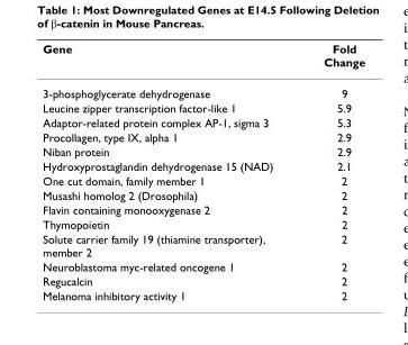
<table><thead><tr><td>Gene</td><td>Fold Change</td></tr></thead><tbody><tr><td>3-phosphoglycerate dehydrogenase</td><td>9</td></tr><tr><td>Leucine zipper transcription factor-like 1</td><td>5.9</td></tr><tr><td>Adaptor-related protein complex AP-1, sigma 3</td><td>5.3</td></tr><tr><td>Procollagen, type IX, alpha 1</td><td>2.9</td></tr><tr><td>Niban protein</td><td>2.9</td></tr><tr><td>Hydroxyprostaglandin dehydrogenase 15 (NAD)</td><td>2.1</td></tr><tr><td>One cut domain, family member 1</td><td>2</td></tr><tr><td>Musashi homolog 2 (Drosophila)</td><td>2</td></tr><tr><td>Flavin containing monooxygenase 2</td><td>2</td></tr><tr><td>Thymopoietin</td><td>2</td></tr><tr><td>Solute carrier family 19 (thiamine transporter), member 2</td><td>2</td></tr><tr><td>Neuroblastoma myc-related oncogene 1</td><td>2</td></tr><tr><td>Regucalcin</td><td>2</td></tr><tr><td>Melanoma inhibitory activity 1</td><td>2</td></tr></tbody></table>